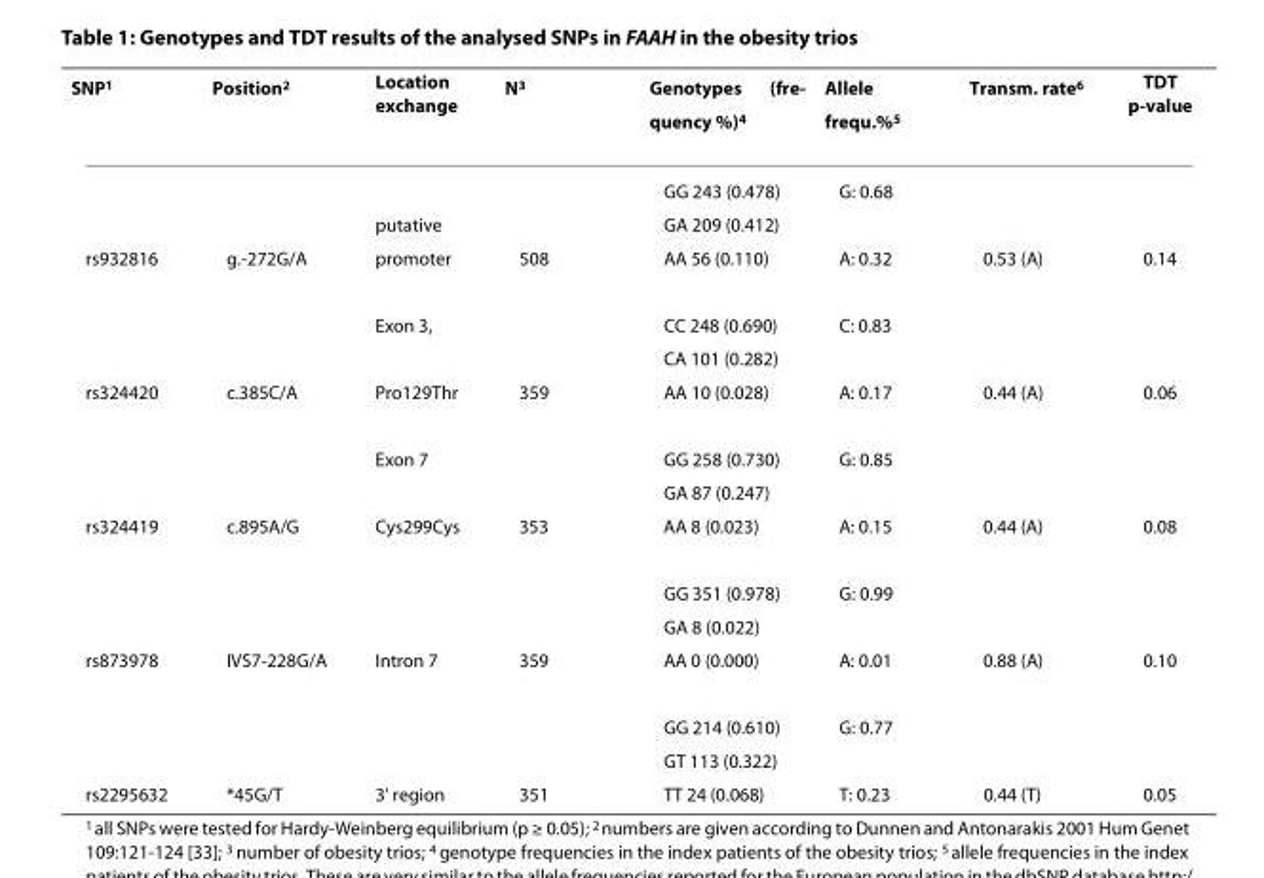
<table><thead><tr><td>SNP<sup>1</sup></td><td>Position<sup>2</sup></td><td>Location exchange</td><td>N<sup>3</sup></td><td>Genotypes (fre- quency %)4</td><td>Allele frequ.%<sup>5</sup></td><td>Transm. rate<sup>6</sup></td><td>TDT p-value</td></tr></thead><tbody><tr><td></td><td></td><td></td><td></td><td>GG 243 (0.478)</td><td>G: 0.68</td><td></td><td></td></tr><tr><td></td><td></td><td>putative</td><td></td><td>GA 209 (0.412)</td><td></td><td></td><td></td></tr><tr><td rowspan="3">rs932816</td><td>g.-272G/A</td><td>promoter</td><td>508</td><td>AA 56 (0.110)</td><td>A: 0.32</td><td>0.53 (A)</td><td>0.14</td></tr><tr><td></td><td>Exon 3,</td><td></td><td>CC 248 (0.690)</td><td>C: 0.83</td><td></td><td></td></tr><tr><td></td><td></td><td></td><td>CA 101 (0.282)</td><td></td><td></td><td></td></tr><tr><td rowspan="3">rs324420</td><td>c.385C/A</td><td>Pro129Thr</td><td>359</td><td>AA 10 (0.028)</td><td>A: 0.17</td><td>0.44 (A)</td><td>0.06</td></tr><tr><td></td><td>Exon 7</td><td></td><td>GG 258 (0.730)</td><td>G: 0.85</td><td></td><td></td></tr><tr><td></td><td></td><td></td><td>GA 87 (0.247)</td><td></td><td></td><td></td></tr><tr><td rowspan="3">rs324419</td><td>c.895A/G</td><td>Cys299Cys</td><td>353</td><td>AA 8 (0.023)</td><td>A: 0.15</td><td>0.44 (A)</td><td>0.08</td></tr><tr><td></td><td></td><td></td><td>GG 351 (0.978)</td><td>G: 0.99</td><td></td><td></td></tr><tr><td></td><td></td><td></td><td>GA 8 (0.022)</td><td></td><td></td><td></td></tr><tr><td rowspan="3">rs873978</td><td>IVS7-228G/A</td><td>Intron 7</td><td>359</td><td>AA 0 (0.000)</td><td>A: 0.01</td><td>0.88 (A)</td><td>0.10</td></tr><tr><td></td><td></td><td></td><td>GG 214 (0.610)</td><td>G: 0.77</td><td></td><td></td></tr><tr><td></td><td></td><td></td><td>GT 113 (0.322)</td><td></td><td></td><td></td></tr><tr><td>rs2295632</td><td>*45G/T</td><td>3&#x27; region</td><td>351</td><td>TT 24 (0.068)</td><td>T: 0.23</td><td>0.44 (T)</td><td>0.05</td></tr></tbody></table>